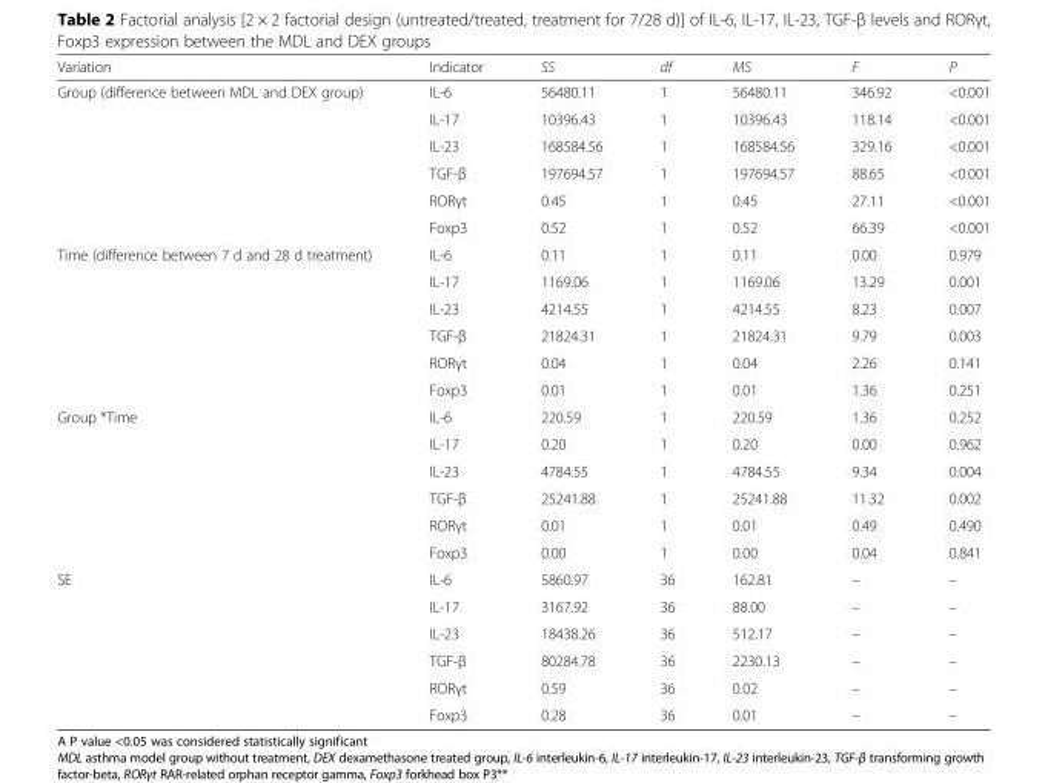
<table><thead><tr><td>Variation</td><td>Indicator</td><td>SS</td><td>df</td><td>MS</td><td>F</td><td>P</td></tr></thead><tbody><tr><td rowspan="6">Group (difference between MDL and DEX group)</td><td>IL-6</td><td>56480.11</td><td>1</td><td>56480.11</td><td>346.92</td><td>&lt;0.001</td></tr><tr><td>IL-17</td><td>10396.43</td><td>1</td><td>10396.43</td><td>118.14</td><td>&lt;0.001</td></tr><tr><td>IL-23</td><td>168584.56</td><td>1</td><td>168584.56</td><td>329.16</td><td>&lt;0.001</td></tr><tr><td>TGF-β</td><td>197694.57</td><td>1</td><td>197694.57</td><td>88.65</td><td>&lt;0.001</td></tr><tr><td>RORγt</td><td>0.45</td><td>1</td><td>0.45</td><td>27.11</td><td>&lt;0.001</td></tr><tr><td>Foxp3</td><td>0.52</td><td>1</td><td>0.52</td><td>66.39</td><td>&lt;0.001</td></tr><tr><td rowspan="6">Time (difference between 7 d and 28 d treatment)</td><td>IL-6</td><td>0.11</td><td>1</td><td>0.11</td><td>0.00</td><td>0.979</td></tr><tr><td>IL-17</td><td>1169.06</td><td>1</td><td>1169.06</td><td>13.29</td><td>0.001</td></tr><tr><td>IL-23</td><td>4214.55</td><td>1</td><td>4214.55</td><td>8.23</td><td>0.007</td></tr><tr><td>TGF-β</td><td>21824.31</td><td>1</td><td>21824.31</td><td>9.79</td><td>0.003</td></tr><tr><td>RORγt</td><td>0.04</td><td>1</td><td>0.04</td><td>2.26</td><td>0.141</td></tr><tr><td>Foxp3</td><td>0.01</td><td>1</td><td>0.01</td><td>1.36</td><td>0.251</td></tr><tr><td rowspan="6">Group *Time</td><td>IL-6</td><td>220.59</td><td>1</td><td>220.59</td><td>1.36</td><td>0.252</td></tr><tr><td>IL-17</td><td>0.20</td><td>1</td><td>0.20</td><td>0.00</td><td>0.962</td></tr><tr><td>IL-23</td><td>4784.55</td><td>1</td><td>4784.55</td><td>9.34</td><td>0.004</td></tr><tr><td>TGF-β</td><td>25241.88</td><td>1</td><td>25241.88</td><td>11.32</td><td>0.002</td></tr><tr><td>RORγt</td><td>0.01</td><td>1</td><td>0.01</td><td>0.49</td><td>0.490</td></tr><tr><td>Foxp3</td><td>0.00</td><td>1</td><td>0.00</td><td>0.04</td><td>0.841</td></tr><tr><td rowspan="6">SE</td><td>IL-6</td><td>5860.97</td><td>36</td><td>162.81</td><td>–</td><td>–</td></tr><tr><td>IL-17</td><td>3167.92</td><td>36</td><td>88.00</td><td>–</td><td>–</td></tr><tr><td>IL-23</td><td>18438.26</td><td>36</td><td>512.17</td><td>–</td><td>–</td></tr><tr><td>TGF-β</td><td>80284.78</td><td>36</td><td>2230.13</td><td>–</td><td>–</td></tr><tr><td>RORγt</td><td>0.59</td><td>36</td><td>0.02</td><td>–</td><td>–</td></tr><tr><td>Foxp3</td><td>0.28</td><td>36</td><td>0.01</td><td>–</td><td>–</td></tr></tbody></table>